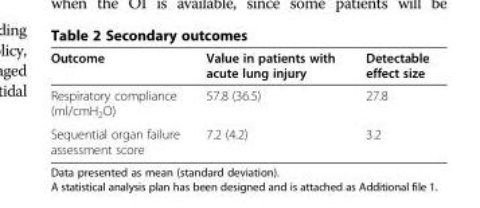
<table><thead><tr><td>Outcome</td><td>Value in patients with acute lung injury</td><td>Detectable effect size</td></tr></thead><tbody><tr><td>Respiratory compliance (ml/cmH<sub>2</sub>O)</td><td>57.8 (36.5)</td><td>27.8</td></tr><tr><td>Sequential organ failure assessment score</td><td>7.2 (4.2)</td><td>3.2</td></tr></tbody></table>